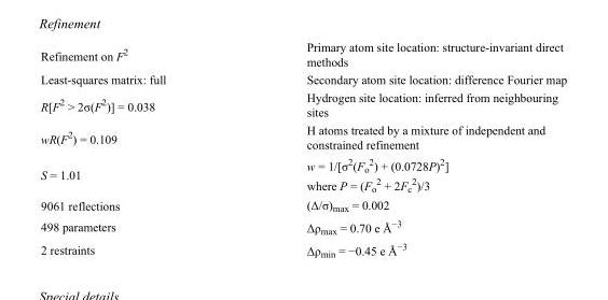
<table><tbody><tr><td>Refinement on F<sup>2</sup></td><td>Primary atom site location: structure-invariant direct methods</td></tr><tr><td>Least-squares matrix: full</td><td>Secondary atom site location: difference Fourier map</td></tr><tr><td>R[F<sup>2</sup> &gt; 2σ(F<sup>2</sup>)] = 0.038</td><td>Hydrogen site location: inferred from neighbouring sites</td></tr><tr><td>wR(F<sup>2</sup>) = 0.109</td><td>H atoms treated by a mixture of independent and constrained refinement</td></tr><tr><td>S = 1.01</td><td>w = 1/[σ<sup>2</sup>(F<sub>o</sub> <sup>2</sup>) + (0.0728P)<sup>2</sup>] where P = (F<sub>o</sub> <sup>2</sup> + 2F<sub>c</sub> <sup>2</sup>)/3</td></tr><tr><td>9061 reflections</td><td>(Δ/σ)<sub>max</sub> = 0.002</td></tr><tr><td>498 parameters</td><td>Δρ<sub>max</sub> = 0.70 e Å<sup>−3</sup></td></tr><tr><td>2 restraints</td><td>Δρ<sub>min</sub> = −0.45 e Å<sup>−3</sup></td></tr></tbody></table>